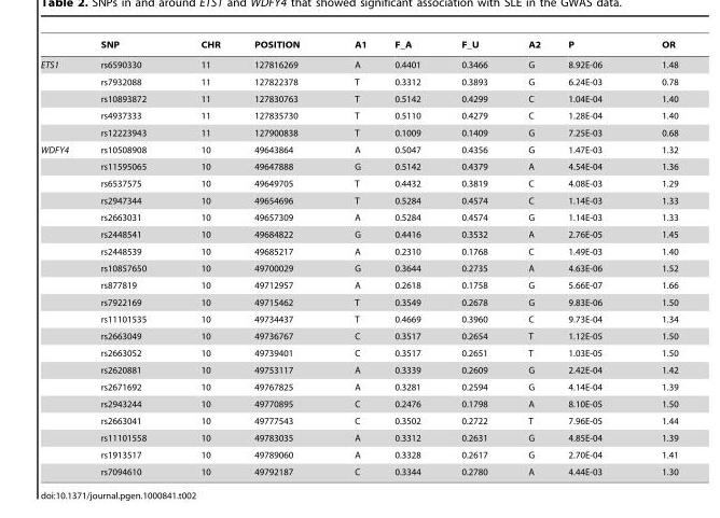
<table><thead><tr><td></td><td>SNP</td><td>CHR</td><td>POSITION</td><td>A1</td><td>F_A</td><td>F_U</td><td>A2</td><td>P</td><td>OR</td></tr></thead><tbody><tr><td rowspan="5">ETS1</td><td>rs6590330</td><td>11</td><td>127816269</td><td>A</td><td>0.4401</td><td>0.3466</td><td>G</td><td>8.92E-06</td><td>1.48</td></tr><tr><td>rs7932088</td><td>11</td><td>127822378</td><td>T</td><td>0.3312</td><td>0.3893</td><td>G</td><td>6.24E-03</td><td>0.78</td></tr><tr><td>rs10893872</td><td>11</td><td>127830763</td><td>T</td><td>0.5142</td><td>0.4299</td><td>C</td><td>1.04E-04</td><td>1.40</td></tr><tr><td>rs4937333</td><td>11</td><td>127835730</td><td>T</td><td>0.5110</td><td>0.4279</td><td>C</td><td>1.28E-04</td><td>1.40</td></tr><tr><td>rs12223943</td><td>11</td><td>127900838</td><td>T</td><td>0.1009</td><td>0.1409</td><td>G</td><td>7.25E-03</td><td>0.68</td></tr><tr><td rowspan="20">WDFY4</td><td>rs10508908</td><td>10</td><td>49643864</td><td>A</td><td>0.5047</td><td>0.4356</td><td>G</td><td>1.47E-03</td><td>1.32</td></tr><tr><td>rs11595065</td><td>10</td><td>49647888</td><td>G</td><td>0.5142</td><td>0.4379</td><td>A</td><td>4.54E-04</td><td>1.36</td></tr><tr><td>rs6537575</td><td>10</td><td>49649705</td><td>T</td><td>0.4432</td><td>0.3819</td><td>C</td><td>4.08E-03</td><td>1.29</td></tr><tr><td>rs2947344</td><td>10</td><td>49654696</td><td>T</td><td>0.5284</td><td>0.4574</td><td>C</td><td>1.14E-03</td><td>1.33</td></tr><tr><td>rs2663031</td><td>10</td><td>49657309</td><td>A</td><td>0.5284</td><td>0.4574</td><td>G</td><td>1.14E-03</td><td>1.33</td></tr><tr><td>rs2448541</td><td>10</td><td>49684822</td><td>G</td><td>0.4416</td><td>0.3532</td><td>A</td><td>2.76E-05</td><td>1.45</td></tr><tr><td>rs2448539</td><td>10</td><td>49685217</td><td>A</td><td>0.2310</td><td>0.1768</td><td>C</td><td>1.49E-03</td><td>1.40</td></tr><tr><td>rs10857650</td><td>10</td><td>49700029</td><td>G</td><td>0.3644</td><td>0.2735</td><td>A</td><td>4.63E-06</td><td>1.52</td></tr><tr><td>rs877819</td><td>10</td><td>49712957</td><td>A</td><td>0.2618</td><td>0.1758</td><td>G</td><td>5.66E-07</td><td>1.66</td></tr><tr><td>rs7922169</td><td>10</td><td>49715462</td><td>T</td><td>0.3549</td><td>0.2678</td><td>G</td><td>9.83E-06</td><td>1.50</td></tr><tr><td>rs11101535</td><td>10</td><td>49734437</td><td>T</td><td>0.4669</td><td>0.3960</td><td>C</td><td>9.73E-04</td><td>1.34</td></tr><tr><td>rs2663049</td><td>10</td><td>49736767</td><td>C</td><td>0.3517</td><td>0.2654</td><td>T</td><td>1.12E-05</td><td>1.50</td></tr><tr><td>rs2663052</td><td>10</td><td>49739401</td><td>C</td><td>0.3517</td><td>0.2651</td><td>T</td><td>1.03E-05</td><td>1.50</td></tr><tr><td>rs2620881</td><td>10</td><td>49753117</td><td>A</td><td>0.3339</td><td>0.2609</td><td>G</td><td>2.42E-04</td><td>1.42</td></tr><tr><td>rs2671692</td><td>10</td><td>49767825</td><td>A</td><td>0.3281</td><td>0.2594</td><td>G</td><td>4.14E-04</td><td>1.39</td></tr><tr><td>rs2943244</td><td>10</td><td>49770895</td><td>C</td><td>0.2476</td><td>0.1798</td><td>A</td><td>8.10E-05</td><td>1.50</td></tr><tr><td>rs2663041</td><td>10</td><td>49777543</td><td>C</td><td>0.3502</td><td>0.2722</td><td>T</td><td>7.96E-05</td><td>1.44</td></tr><tr><td>rs11101558</td><td>10</td><td>49783035</td><td>A</td><td>0.3312</td><td>0.2631</td><td>G</td><td>4.85E-04</td><td>1.39</td></tr><tr><td>rs1913517</td><td>10</td><td>49789060</td><td>A</td><td>0.3328</td><td>0.2617</td><td>G</td><td>2.70E-04</td><td>1.41</td></tr><tr><td>rs7094610</td><td>10</td><td>49792187</td><td>C</td><td>0.3344</td><td>0.2780</td><td>A</td><td>4.44E-03</td><td>1.30</td></tr></tbody></table>